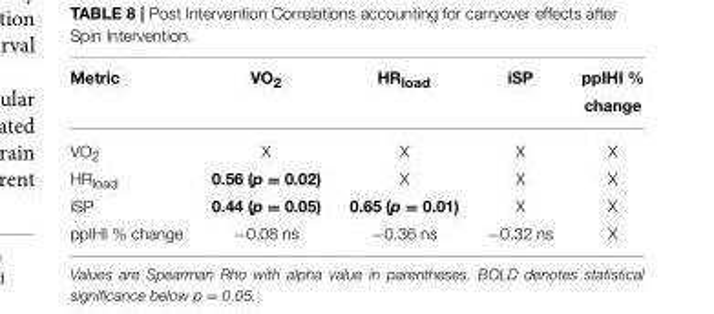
<table><thead><tr><td>Metric</td><td>VO<sub>2</sub></td><td>HR<sub>load</sub></td><td>iSP</td><td>ppIHI % change</td></tr></thead><tbody><tr><td>VO<sub>2</sub></td><td>X</td><td>X</td><td>X</td><td>X</td></tr><tr><td>HR<sub>load</sub></td><td>0.56 (p = 0.02)</td><td>X</td><td>X</td><td>X</td></tr><tr><td>iSP</td><td>0.44 (p = 0.05)</td><td>0.65 (p = 0.01)</td><td>X</td><td>X</td></tr><tr><td>ppIHI % change</td><td>−0.08 ns</td><td>−0.36 ns</td><td>−0.32 ns</td><td>X</td></tr></tbody></table>